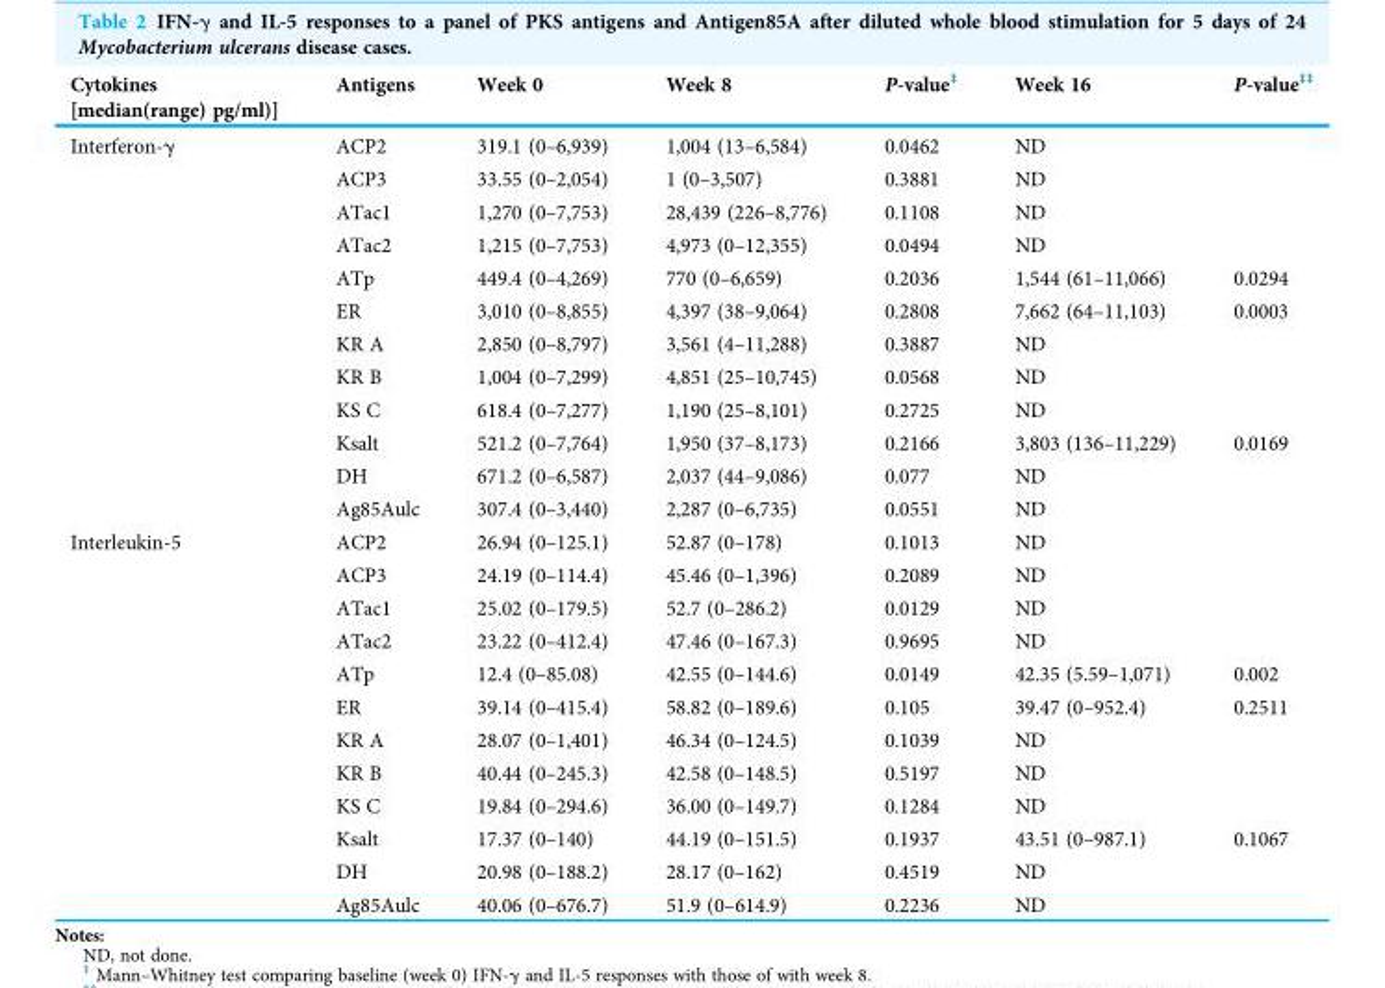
<table><thead><tr><td>Cytokines [median(range) pg/ml)]</td><td>Antigens</td><td>Week 0</td><td>Week 8</td><td>P-value<sup>‡</sup></td><td>Week 16</td><td>P-value<sup>‡‡</sup></td></tr></thead><tbody><tr><td rowspan="12">Interferon-γ</td><td>ACP2</td><td>319.1 (0–6,939)</td><td>1,004 (13–6,584)</td><td>0.0462</td><td>ND</td><td></td></tr><tr><td>ACP3</td><td>33.55 (0–2,054)</td><td>1 (0–3,507)</td><td>0.3881</td><td>ND</td><td></td></tr><tr><td>ATac1</td><td>1,270 (0–7,753)</td><td>28,439 (226–8,776)</td><td>0.1108</td><td>ND</td><td></td></tr><tr><td>ATac2</td><td>1,215 (0–7,753)</td><td>4,973 (0–12,355)</td><td>0.0494</td><td>ND</td><td></td></tr><tr><td>ATp</td><td>449.4 (0–4,269)</td><td>770 (0–6,659)</td><td>0.2036</td><td>1,544 (61–11,066)</td><td>0.0294</td></tr><tr><td>ER</td><td>3,010 (0–8,855)</td><td>4,397 (38–9,064)</td><td>0.2808</td><td>7,662 (64–11,103)</td><td>0.0003</td></tr><tr><td>KR A</td><td>2,850 (0–8,797)</td><td>3,561 (4–11,288)</td><td>0.3887</td><td>ND</td><td></td></tr><tr><td>KR B</td><td>1,004 (0–7,299)</td><td>4,851 (25–10,745)</td><td>0.0568</td><td>ND</td><td></td></tr><tr><td>KS C</td><td>618.4 (0–7,277)</td><td>1,190 (25–8,101)</td><td>0.2725</td><td>ND</td><td></td></tr><tr><td>Ksalt</td><td>521.2 (0–7,764)</td><td>1,950 (37–8,173)</td><td>0.2166</td><td>3,803 (136–11,229)</td><td>0.0169</td></tr><tr><td>DH</td><td>671.2 (0–6,587)</td><td>2,037 (44–9,086)</td><td>0.077</td><td>ND</td><td></td></tr><tr><td>Ag85Aulc</td><td>307.4 (0–3,440)</td><td>2,287 (0–6,735)</td><td>0.0551</td><td>ND</td><td></td></tr><tr><td rowspan="12">Interleukin-5</td><td>ACP2</td><td>26.94 (0–125.1)</td><td>52.87 (0–178)</td><td>0.1013</td><td>ND</td><td></td></tr><tr><td>ACP3</td><td>24.19 (0–114.4)</td><td>45.46 (0–1,396)</td><td>0.2089</td><td>ND</td><td></td></tr><tr><td>ATac1</td><td>25.02 (0–179.5)</td><td>52.7 (0–286.2)</td><td>0.0129</td><td>ND</td><td></td></tr><tr><td>ATac2</td><td>23.22 (0–412.4)</td><td>47.46 (0–167.3)</td><td>0.9695</td><td>ND</td><td></td></tr><tr><td>ATp</td><td>12.4 (0–85.08)</td><td>42.55 (0–144.6)</td><td>0.0149</td><td>42.35 (5.59–1,071)</td><td>0.002</td></tr><tr><td>ER</td><td>39.14 (0–415.4)</td><td>58.82 (0–189.6)</td><td>0.105</td><td>39.47 (0–952.4)</td><td>0.2511</td></tr><tr><td>KR A</td><td>28.07 (0–1,401)</td><td>46.34 (0–124.5)</td><td>0.1039</td><td>ND</td><td></td></tr><tr><td>KR B</td><td>40.44 (0–245.3)</td><td>42.58 (0–148.5)</td><td>0.5197</td><td>ND</td><td></td></tr><tr><td>KS C</td><td>19.84 (0–294.6)</td><td>36.00 (0–149.7)</td><td>0.1284</td><td>ND</td><td></td></tr><tr><td>Ksalt</td><td>17.37 (0–140)</td><td>44.19 (0–151.5)</td><td>0.1937</td><td>43.51 (0–987.1)</td><td>0.1067</td></tr><tr><td>DH</td><td>20.98 (0–188.2)</td><td>28.17 (0–162)</td><td>0.4519</td><td>ND</td><td></td></tr><tr><td>Ag85Aulc</td><td>40.06 (0–676.7)</td><td>51.9 (0–614.9)</td><td>0.2236</td><td>ND</td><td></td></tr></tbody></table>